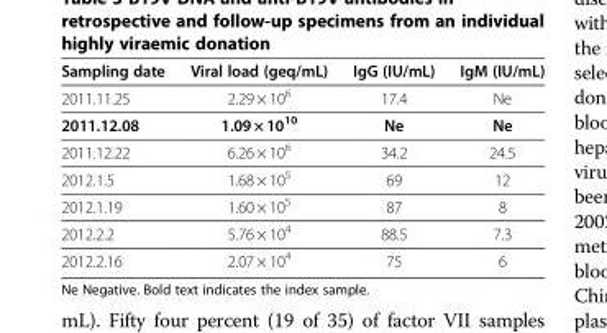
<table><thead><tr><td>Sampling date</td><td>Viral load (geq/mL)</td><td>IgG (IU/mL)</td><td>IgM (IU/mL)</td></tr></thead><tbody><tr><td>2011.11.25</td><td>2.29 × 10<sup>6</sup></td><td>17.4</td><td>Ne</td></tr><tr><td>2011.12.08</td><td>1.09 × 10<sup>10</sup></td><td>Ne</td><td>Ne</td></tr><tr><td>2011.12.22</td><td>6.26 × 10<sup>6</sup></td><td>34.2</td><td>24.5</td></tr><tr><td>2012.1.5</td><td>1.68 × 10<sup>5</sup></td><td>69</td><td>12</td></tr><tr><td>2012.1.19</td><td>1.60 × 10<sup>5</sup></td><td>87</td><td>8</td></tr><tr><td>2012.2.2</td><td>5.76 × 10<sup>4</sup></td><td>88.5</td><td>7.3</td></tr><tr><td>2012.2.16</td><td>2.07 × 10<sup>4</sup></td><td>75</td><td>6</td></tr></tbody></table>